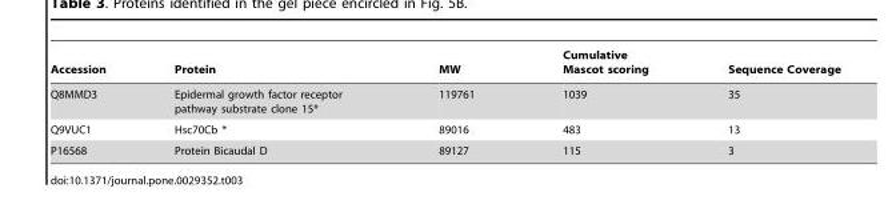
<table><thead><tr><td>Accession</td><td>Protein</td><td>MW</td><td>Cumulative Mascot scoring</td><td>Sequence Coverage</td></tr></thead><tbody><tr><td>Q8MMD3</td><td>Epidermal growth factor receptor pathway substrate clone 15*</td><td>119761</td><td>1039</td><td>35</td></tr><tr><td>Q9VUC1</td><td>Hsc70Cb *</td><td>89016</td><td>483</td><td>13</td></tr><tr><td>P16568</td><td>Protein Bicaudal D</td><td>89127</td><td>115</td><td>3</td></tr></tbody></table>